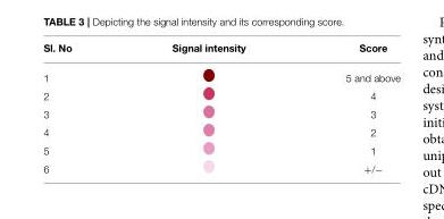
<table><thead><tr><td>Sl. No</td><td>Signal intensity</td><td>Score</td></tr></thead><tbody><tr><td>1</td><td></td><td>5 and above</td></tr><tr><td>2</td><td></td><td>4</td></tr><tr><td>3</td><td></td><td>3</td></tr><tr><td>4</td><td></td><td>2</td></tr><tr><td>5</td><td></td><td>1</td></tr><tr><td>6</td><td></td><td>+/−</td></tr></tbody></table>